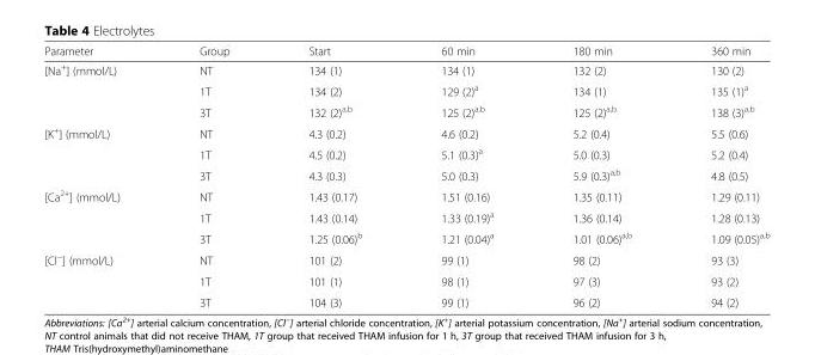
<table><thead><tr><td>Parameter</td><td>Group</td><td>Start</td><td>60 min</td><td>180 min</td><td>360 min</td></tr></thead><tbody><tr><td rowspan="3">[Na<sup>+</sup>] (mmol/L)</td><td>NT</td><td>134 (1)</td><td>134 (1)</td><td>132 (2)</td><td>130 (2)</td></tr><tr><td>1T</td><td>134 (2)</td><td>129 (2)<sup>a</sup></td><td>134 (1)</td><td>135 (1)<sup>a</sup></td></tr><tr><td>3T</td><td>132 (2)<sup>a,b</sup></td><td>125 (2)<sup>a,b</sup></td><td>125 (2)<sup>a,b</sup></td><td>138 (3)<sup>a,b</sup></td></tr><tr><td rowspan="3">[K<sup>+</sup>] (mmol/L)</td><td>NT</td><td>4.3 (0.2)</td><td>4.6 (0.2)</td><td>5.2 (0.4)</td><td>5.5 (0.6)</td></tr><tr><td>1T</td><td>4.5 (0.2)</td><td>5.1 (0.3)<sup>a</sup></td><td>5.0 (0.3)</td><td>5.2 (0.4)</td></tr><tr><td>3T</td><td>4.3 (0.3)</td><td>5.0 (0.3)</td><td>5.9 (0.3)<sup>a,b</sup></td><td>4.8 (0.5)</td></tr><tr><td rowspan="3">[Ca<sup>2+</sup>] (mmol/L)</td><td>NT</td><td>1.43 (0.17)</td><td>1.51 (0.16)</td><td>1.35 (0.11)</td><td>1.29 (0.11)</td></tr><tr><td>1T</td><td>1.43 (0.14)</td><td>1.33 (0.19)<sup>a</sup></td><td>1.36 (0.14)</td><td>1.28 (0.13)</td></tr><tr><td>3T</td><td>1.25 (0.06)<sup>b</sup></td><td>1.21 (0.04)<sup>a</sup></td><td>1.01 (0.06)<sup>a,b</sup></td><td>1.09 (0.05)<sup>a,b</sup></td></tr><tr><td rowspan="3">[Cl<sup>−</sup>] (mmol/L)</td><td>NT</td><td>101 (2)</td><td>99 (1)</td><td>98 (2)</td><td>93 (3)</td></tr><tr><td>1T</td><td>101 (1)</td><td>98 (1)</td><td>97 (3)</td><td>93 (2)</td></tr><tr><td>3T</td><td>104 (3)</td><td>99 (1)</td><td>96 (2)</td><td>94 (2)</td></tr></tbody></table>